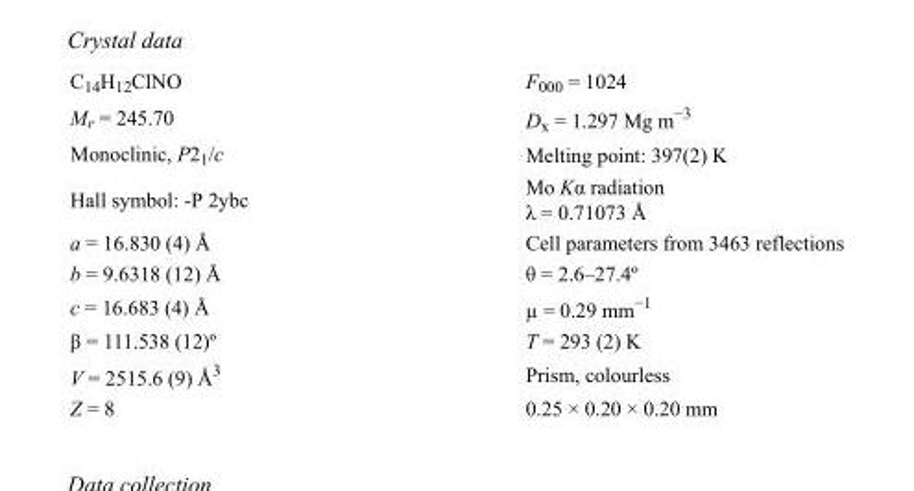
<table><tbody><tr><td>C<sub>14</sub>H<sub>12</sub>ClNO</td><td>F<sub>000</sub> = 1024</td></tr><tr><td>M<sub>r</sub> = 245.70</td><td>D<sub>x</sub> = 1.297 Mg m<sup>−3</sup></td></tr><tr><td>Monoclinic, P2<sub>1</sub>/c</td><td>Melting point: 397(2) K</td></tr><tr><td>Hall symbol: -P 2ybc</td><td>Mo Kα radiation λ = 0.71073 Å</td></tr><tr><td>a = 16.830 (4) Å</td><td>Cell parameters from 3463 reflections</td></tr><tr><td>b = 9.6318 (12) Å</td><td>θ = 2.6–27.4º</td></tr><tr><td>c = 16.683 (4) Å</td><td>µ = 0.29 mm<sup>−1</sup></td></tr><tr><td>β = 111.538 (12)º</td><td>T = 293 (2) K</td></tr><tr><td>V = 2515.6 (9) Å<sup>3</sup></td><td>Prism, colourless</td></tr><tr><td>Z = 8</td><td>0.25 × 0.20 × 0.20 mm</td></tr></tbody></table>